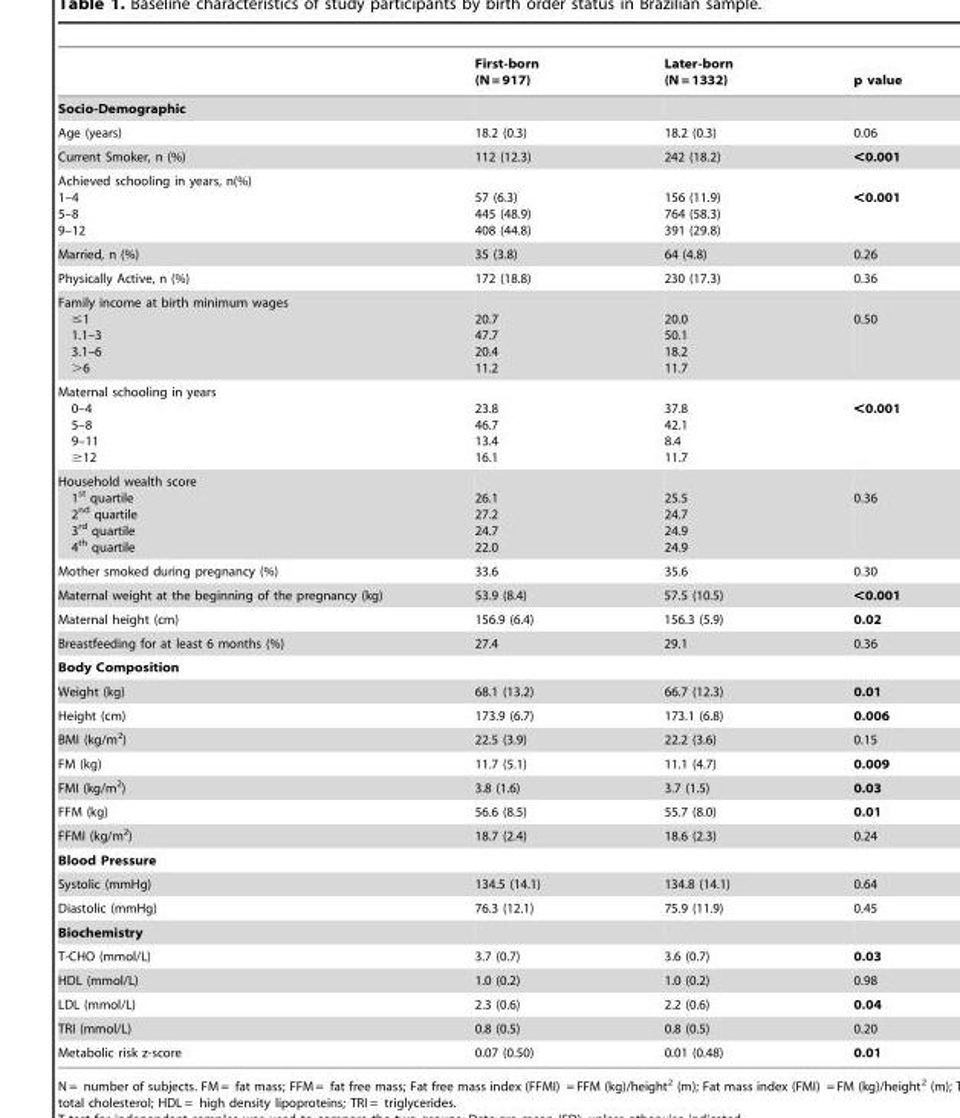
<table><thead><tr><td></td><td>First-born (N = 917)</td><td>Later-born (N = 1332)</td><td>p value</td></tr></thead><tbody><tr><td colspan="4">Socio-Demographic</td></tr><tr><td>Age (years)</td><td>18.2 (0.3)</td><td>18.2 (0.3)</td><td>0.06</td></tr><tr><td>Current Smoker, n (%)</td><td>112 (12.3)</td><td>242 (18.2)</td><td>&lt;0.001</td></tr><tr><td>Achieved schooling in years, n(%) 1–4 5–8 9–12</td><td>57 (6.3) 445 (48.9) 408 (44.8)</td><td>156 (11.9) 764 (58.3) 391 (29.8)</td><td>&lt;0.001</td></tr><tr><td>Married, n (%)</td><td>35 (3.8)</td><td>64 (4.8)</td><td>0.26</td></tr><tr><td>Physically Active, n (%)</td><td>172 (18.8)</td><td>230 (17.3)</td><td>0.36</td></tr><tr><td>Family income at birth minimum wages ≤1 1.1–3 3.1–6 &gt;6</td><td>20.7 47.7 20.4 11.2</td><td>20.0 50.1 18.2 11.7</td><td>0.50</td></tr><tr><td>Maternal schooling in years 0–4 5–8 9–11 ≥12</td><td>23.8 46.7 13.4 16.1</td><td>37.8 42.1 8.4 11.7</td><td>&lt;0.001</td></tr><tr><td>Household wealth score 1<sup>st</sup> quartile 2<sup>nd</sup> quartile 3<sup>rd</sup> quartile 4<sup>th</sup> quartile</td><td>26.1 27.2 24.7 22.0</td><td>25.5 24.7 24.9 24.9</td><td>0.36</td></tr><tr><td>Mother smoked during pregnancy (%)</td><td>33.6</td><td>35.6</td><td>0.30</td></tr><tr><td>Maternal weight at the beginning of the pregnancy (kg)</td><td>53.9 (8.4)</td><td>57.5 (10.5)</td><td>&lt;0.001</td></tr><tr><td>Maternal height (cm)</td><td>156.9 (6.4)</td><td>156.3 (5.9)</td><td>0.02</td></tr><tr><td>Breastfeeding for at least 6 months (%)</td><td>27.4</td><td>29.1</td><td>0.36</td></tr><tr><td colspan="4">Body Composition</td></tr><tr><td>Weight (kg)</td><td>68.1 (13.2)</td><td>66.7 (12.3)</td><td>0.01</td></tr><tr><td>Height (cm)</td><td>173.9 (6.7)</td><td>173.1 (6.8)</td><td>0.006</td></tr><tr><td>BMI (kg/m<sup>2</sup>)</td><td>22.5 (3.9)</td><td>22.2 (3.6)</td><td>0.15</td></tr><tr><td>FM (kg)</td><td>11.7 (5.1)</td><td>11.1 (4.7)</td><td>0.009</td></tr><tr><td>FMI (kg/m<sup>2</sup>)</td><td>3.8 (1.6)</td><td>3.7 (1.5)</td><td>0.03</td></tr><tr><td>FFM (kg)</td><td>56.6 (8.5)</td><td>55.7 (8.0)</td><td>0.01</td></tr><tr><td>FFMI (kg/m<sup>2</sup>)</td><td>18.7 (2.4)</td><td>18.6 (2.3)</td><td>0.24</td></tr><tr><td colspan="4">Blood Pressure</td></tr><tr><td>Systolic (mmHg)</td><td>134.5 (14.1)</td><td>134.8 (14.1)</td><td>0.64</td></tr><tr><td>Diastolic (mmHg)</td><td>76.3 (12.1)</td><td>75.9 (11.9)</td><td>0.45</td></tr><tr><td colspan="4">Biochemistry</td></tr><tr><td>T-CHO (mmol/L)</td><td>3.7 (0.7)</td><td>3.6 (0.7)</td><td>0.03</td></tr><tr><td>HDL (mmol/L)</td><td>1.0 (0.2)</td><td>1.0 (0.2)</td><td>0.98</td></tr><tr><td>LDL (mmol/L)</td><td>2.3 (0.6)</td><td>2.2 (0.6)</td><td>0.04</td></tr><tr><td>TRI (mmol/L)</td><td>0.8 (0.5)</td><td>0.8 (0.5)</td><td>0.20</td></tr><tr><td>Metabolic risk z-score</td><td>0.07 (0.50)</td><td>0.01 (0.48)</td><td>0.01</td></tr></tbody></table>